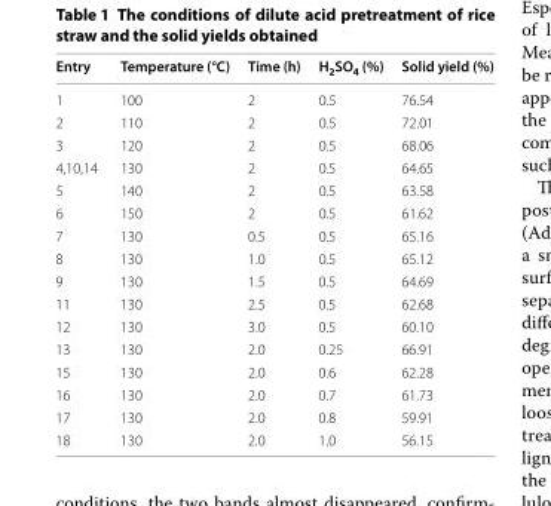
<table><thead><tr><td>Entry</td><td>Temperature (°C)</td><td>Time (h)</td><td>H<sub>2</sub>SO<sub>4</sub> (%)</td><td>Solid yield (%)</td></tr></thead><tbody><tr><td>1</td><td>100</td><td>2</td><td>0.5</td><td>76.54</td></tr><tr><td>2</td><td>110</td><td>2</td><td>0.5</td><td>72.01</td></tr><tr><td>3</td><td>120</td><td>2</td><td>0.5</td><td>68.06</td></tr><tr><td>4,10,14</td><td>130</td><td>2</td><td>0.5</td><td>64.65</td></tr><tr><td>5</td><td>140</td><td>2</td><td>0.5</td><td>63.58</td></tr><tr><td>6</td><td>150</td><td>2</td><td>0.5</td><td>61.62</td></tr><tr><td>7</td><td>130</td><td>0.5</td><td>0.5</td><td>65.16</td></tr><tr><td>8</td><td>130</td><td>1.0</td><td>0.5</td><td>65.12</td></tr><tr><td>9</td><td>130</td><td>1.5</td><td>0.5</td><td>64.69</td></tr><tr><td>11</td><td>130</td><td>2.5</td><td>0.5</td><td>62.68</td></tr><tr><td>12</td><td>130</td><td>3.0</td><td>0.5</td><td>60.10</td></tr><tr><td>13</td><td>130</td><td>2.0</td><td>0.25</td><td>66.91</td></tr><tr><td>15</td><td>130</td><td>2.0</td><td>0.6</td><td>62.28</td></tr><tr><td>16</td><td>130</td><td>2.0</td><td>0.7</td><td>61.73</td></tr><tr><td>17</td><td>130</td><td>2.0</td><td>0.8</td><td>59.91</td></tr><tr><td>18</td><td>130</td><td>2.0</td><td>1.0</td><td>56.15</td></tr></tbody></table>